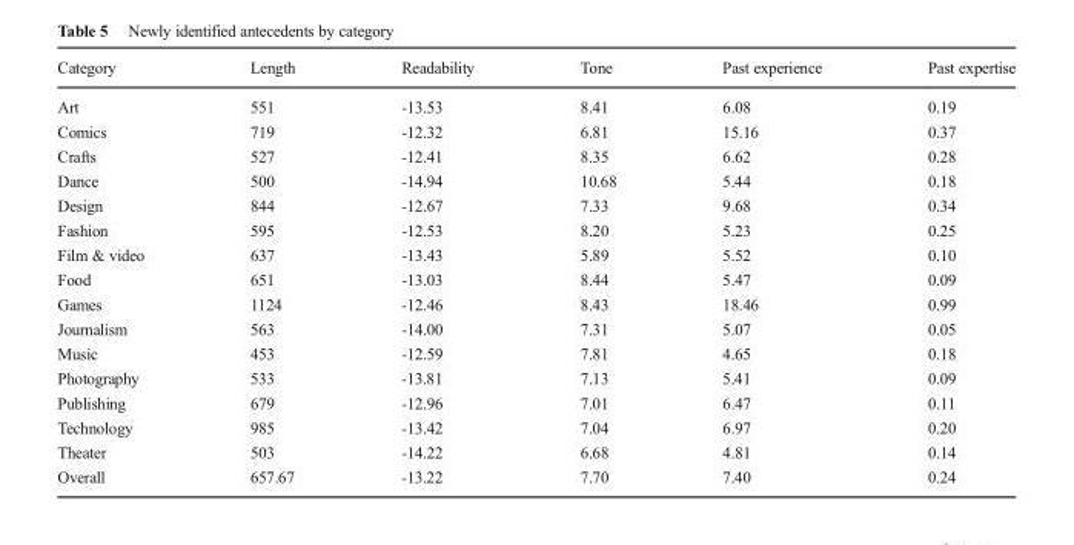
<table><thead><tr><td>Category</td><td>Length</td><td>Readability</td><td>Tone</td><td>Past experience</td><td>Past expertise</td></tr></thead><tbody><tr><td>Art</td><td>551</td><td>-13.53</td><td>8.41</td><td>6.08</td><td>0.19</td></tr><tr><td>Comics</td><td>719</td><td>-12.32</td><td>6.81</td><td>15.16</td><td>0.37</td></tr><tr><td>Crafts</td><td>527</td><td>-12.41</td><td>8.35</td><td>6.62</td><td>0.28</td></tr><tr><td>Dance</td><td>500</td><td>-14.94</td><td>10.68</td><td>5.44</td><td>0.18</td></tr><tr><td>Design</td><td>844</td><td>-12.67</td><td>7.33</td><td>9.68</td><td>0.34</td></tr><tr><td>Fashion</td><td>595</td><td>-12.53</td><td>8.20</td><td>5.23</td><td>0.25</td></tr><tr><td>Film &amp; video</td><td>637</td><td>-13.43</td><td>5.89</td><td>5.52</td><td>0.10</td></tr><tr><td>Food</td><td>651</td><td>-13.03</td><td>8.44</td><td>5.47</td><td>0.09</td></tr><tr><td>Games</td><td>1124</td><td>-12.46</td><td>8.43</td><td>18.46</td><td>0.99</td></tr><tr><td>Journalism</td><td>563</td><td>-14.00</td><td>7.31</td><td>5.07</td><td>0.05</td></tr><tr><td>Music</td><td>453</td><td>-12.59</td><td>7.81</td><td>4.65</td><td>0.18</td></tr><tr><td>Photography</td><td>533</td><td>-13.81</td><td>7.13</td><td>5.41</td><td>0.09</td></tr><tr><td>Publishing</td><td>679</td><td>-12.96</td><td>7.01</td><td>6.47</td><td>0.11</td></tr><tr><td>Technology</td><td>985</td><td>-13.42</td><td>7.04</td><td>6.97</td><td>0.20</td></tr><tr><td>Theater</td><td>503</td><td>-14.22</td><td>6.68</td><td>4.81</td><td>0.14</td></tr><tr><td>Overall</td><td>657.67</td><td>-13.22</td><td>7.70</td><td>7.40</td><td>0.24</td></tr></tbody></table>